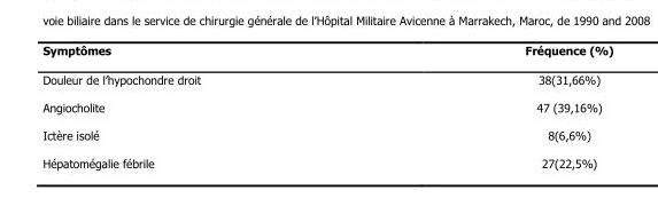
<table><thead><tr><td>Symptômes</td><td>Fréquence (%)</td></tr></thead><tbody><tr><td>Douleur de l’hypochondre droit</td><td>38(31,66%)</td></tr><tr><td>Angiocholite</td><td>47 (39,16%)</td></tr><tr><td>Ictère isolé</td><td>8(6,6%)</td></tr><tr><td>Hépatomégalie fébrile</td><td>27(22,5%)</td></tr></tbody></table>